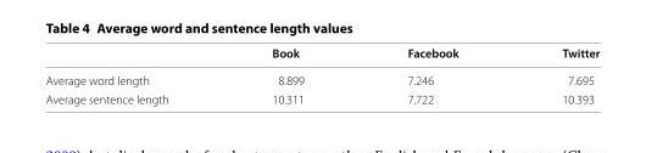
<table><thead><tr><td></td><td>Book</td><td>Facebook</td><td>Twitter</td></tr></thead><tbody><tr><td>Average word length</td><td>8.899</td><td>7.246</td><td>7.695</td></tr><tr><td>Average sentence length</td><td>10.311</td><td>7.722</td><td>10.393</td></tr></tbody></table>